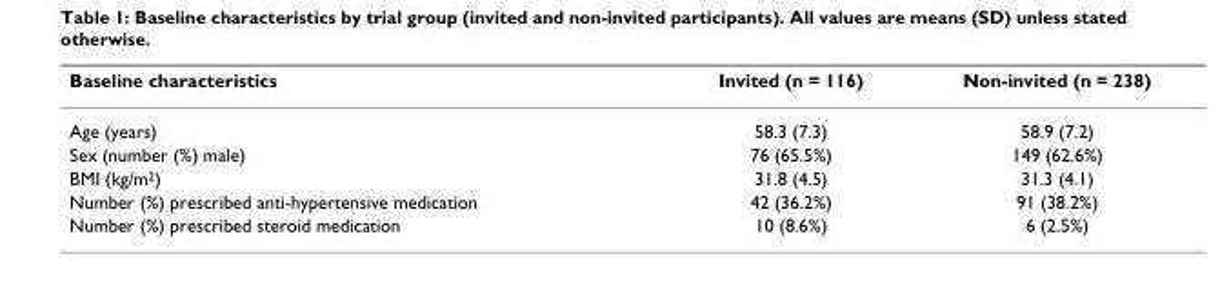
<table><thead><tr><td>Baseline characteristics</td><td>Invited (n = 116)</td><td>Non-invited (n = 238)</td></tr></thead><tbody><tr><td>Age (years)</td><td>58.3 (7.3)</td><td>58.9 (7.2)</td></tr><tr><td>Sex (number (%) male)</td><td>76 (65.5%)</td><td>149 (62.6%)</td></tr><tr><td>BMI (kg/m<sup>2</sup>)</td><td>31.8 (4.5)</td><td>31.3 (4.1)</td></tr><tr><td>Number (%) prescribed anti-hypertensive medication</td><td>42 (36.2%)</td><td>91 (38.2%)</td></tr><tr><td>Number (%) prescribed steroid medication</td><td>10 (8.6%)</td><td>6 (2.5%)</td></tr></tbody></table>